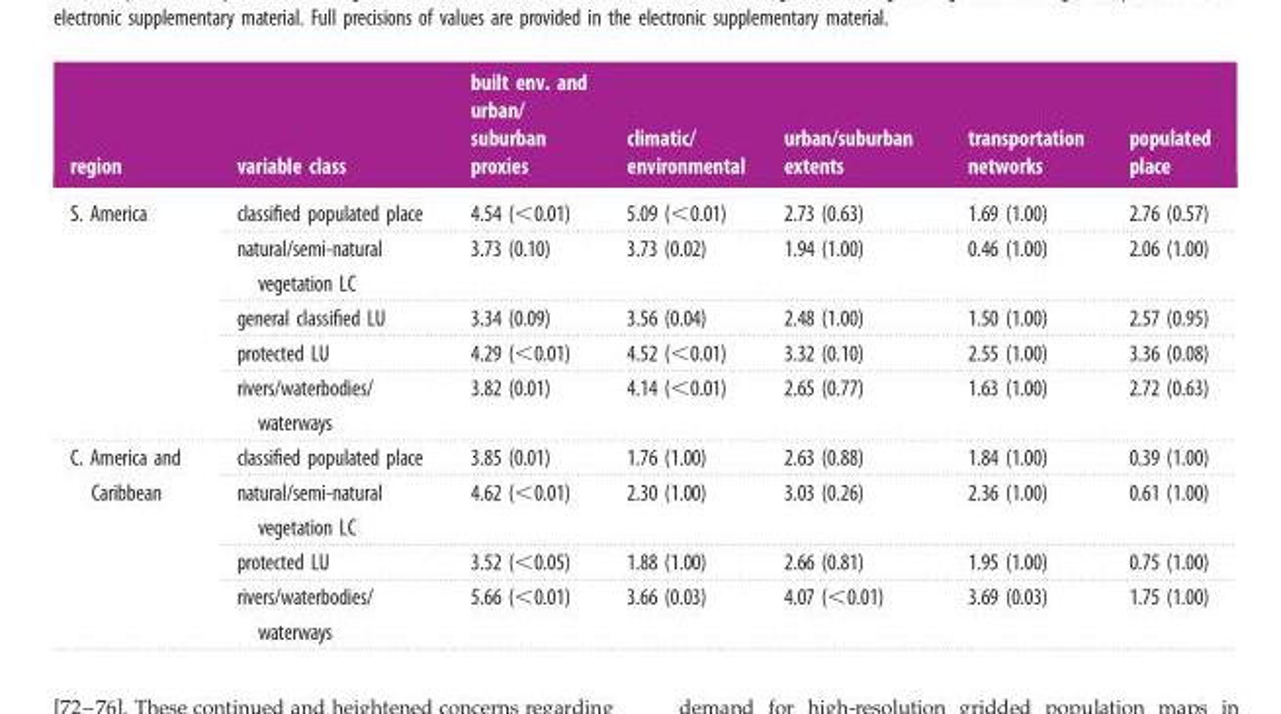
<table><thead><tr><td>region</td><td>variable class</td><td>built env. and urban/ suburban proxies</td><td>climatic/ environmental</td><td>urban/suburban extents</td><td>transportation networks</td><td>populated place</td></tr></thead><tbody><tr><td rowspan="5">S. America</td><td>classified populated place</td><td>4.54 (&lt;0.01)</td><td>5.09 (&lt;0.01)</td><td>2.73 (0.63)</td><td>1.69 (1.00)</td><td>2.76 (0.57)</td></tr><tr><td>natural/semi-natural vegetation LC</td><td>3.73 (0.10)</td><td>3.73 (0.02)</td><td>1.94 (1.00)</td><td>0.46 (1.00)</td><td>2.06 (1.00)</td></tr><tr><td>general classified LU</td><td>3.34 (0.09)</td><td>3.56 (0.04)</td><td>2.48 (1.00)</td><td>1.50 (1.00)</td><td>2.57 (0.95)</td></tr><tr><td>protected LU</td><td>4.29 (&lt;0.01)</td><td>4.52 (&lt;0.01)</td><td>3.32 (0.10)</td><td>2.55 (1.00)</td><td>3.36 (0.08)</td></tr><tr><td>rivers/waterbodies/ waterways</td><td>3.82 (0.01)</td><td>4.14 (&lt;0.01)</td><td>2.65 (0.77)</td><td>1.63 (1.00)</td><td>2.72 (0.63)</td></tr><tr><td rowspan="4">C. America and Caribbean</td><td>classified populated place</td><td>3.85 (0.01)</td><td>1.76 (1.00)</td><td>2.63 (0.88)</td><td>1.84 (1.00)</td><td>0.39 (1.00)</td></tr><tr><td>natural/semi-natural vegetation LC</td><td>4.62 (&lt;0.01)</td><td>2.30 (1.00)</td><td>3.03 (0.26)</td><td>2.36 (1.00)</td><td>0.61 (1.00)</td></tr><tr><td>protected LU</td><td>3.52 (&lt;0.05)</td><td>1.88 (1.00)</td><td>2.66 (0.81)</td><td>1.95 (1.00)</td><td>0.75 (1.00)</td></tr><tr><td>rivers/waterbodies/ waterways</td><td>5.66 (&lt;0.01)</td><td>3.66 (0.03)</td><td>4.07 (&lt;0.01)</td><td>3.69 (0.03)</td><td>1.75 (1.00)</td></tr></tbody></table>